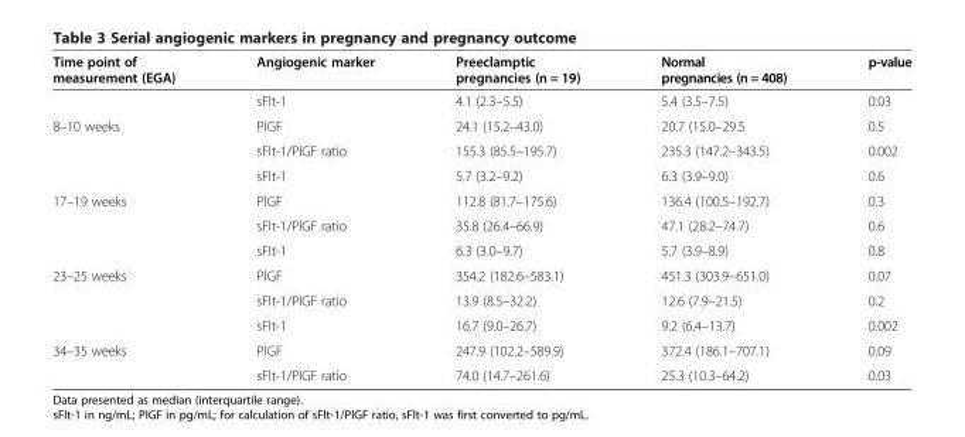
<table><thead><tr><td>Time point of measurement (EGA)</td><td>Angiogenic marker</td><td>Preeclamptic pregnancies (n = 19)</td><td>Normal pregnancies (n = 408)</td><td>p-value</td></tr></thead><tbody><tr><td></td><td>sFlt-1</td><td>4.1 (2.3–5.5)</td><td>5.4 (3.5–7.5)</td><td>0.03</td></tr><tr><td rowspan="3">8–10 weeks</td><td>PlGF</td><td>24.1 (15.2–43.0)</td><td>20.7 (15.0–29.5</td><td>0.5</td></tr><tr><td>sFlt-1/PlGF ratio</td><td>155.3 (85.5–195.7)</td><td>235.3 (147.2–343.5)</td><td>0.002</td></tr><tr><td>sFlt-1</td><td>5.7 (3.2–9.2)</td><td>6.3 (3.9–9.0)</td><td>0.6</td></tr><tr><td rowspan="3">17–19 weeks</td><td>PlGF</td><td>112.8 (81.7–175.6)</td><td>136.4 (100.5–192.7)</td><td>0.3</td></tr><tr><td>sFlt-1/PlGF ratio</td><td>35.8 (26.4–66.9)</td><td>47.1 (28.2–74.7)</td><td>0.6</td></tr><tr><td>sFlt-1</td><td>6.3 (3.0–9.7)</td><td>5.7 (3.9–8.9)</td><td>0.8</td></tr><tr><td rowspan="3">23–25 weeks</td><td>PlGF</td><td>354.2 (182.6–583.1)</td><td>451.3 (303.9–651.0)</td><td>0.07</td></tr><tr><td>sFlt-1/PlGF ratio</td><td>13.9 (8.5–32.2)</td><td>12.6 (7.9–21.5)</td><td>0.2</td></tr><tr><td>sFlt-1</td><td>16.7 (9.0–26.7)</td><td>9.2 (6.4–13.7)</td><td>0.002</td></tr><tr><td rowspan="2">34–35 weeks</td><td>PlGF</td><td>247.9 (102.2–589.9)</td><td>372.4 (186.1–707.1)</td><td>0.09</td></tr><tr><td>sFlt-1/PlGF ratio</td><td>74.0 (14.7–261.6)</td><td>25.3 (10.3–64.2)</td><td>0.03</td></tr></tbody></table>